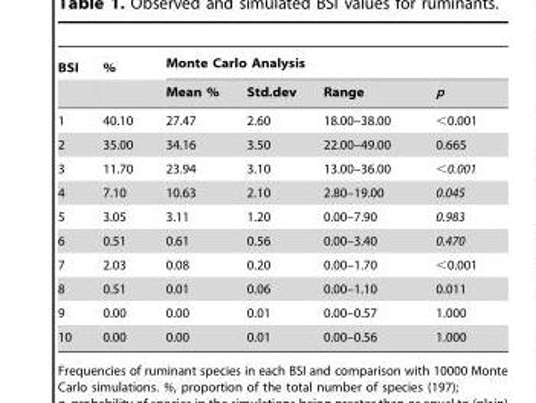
<table><thead><tr><td rowspan="2">BSI</td><td rowspan="2">%</td><td colspan="4">Monte Carlo Analysis</td></tr><tr><td>Mean %</td><td>Std.dev</td><td>Range</td><td>p</td></tr></thead><tbody><tr><td>1</td><td>40.10</td><td>27.47</td><td>2.60</td><td>18.00–38.00</td><td>&lt;0.001</td></tr><tr><td>2</td><td>35.00</td><td>34.16</td><td>3.50</td><td>22.00–49.00</td><td>0.665</td></tr><tr><td>3</td><td>11.70</td><td>23.94</td><td>3.10</td><td>13.00–36.00</td><td>&lt;0.001</td></tr><tr><td>4</td><td>7.10</td><td>10.63</td><td>2.10</td><td>2.80–19.00</td><td>0.045</td></tr><tr><td>5</td><td>3.05</td><td>3.11</td><td>1.20</td><td>0.00–7.90</td><td>0.983</td></tr><tr><td>6</td><td>0.51</td><td>0.61</td><td>0.56</td><td>0.00–3.40</td><td>0.470</td></tr><tr><td>7</td><td>2.03</td><td>0.08</td><td>0.20</td><td>0.00–1.70</td><td>&lt;0.001</td></tr><tr><td>8</td><td>0.51</td><td>0.01</td><td>0.06</td><td>0.00–1.10</td><td>0.011</td></tr><tr><td>9</td><td>0.00</td><td>0.00</td><td>0.01</td><td>0.00–0.57</td><td>1.000</td></tr><tr><td>10</td><td>0.00</td><td>0.00</td><td>0.01</td><td>0.00–0.56</td><td>1.000</td></tr></tbody></table>